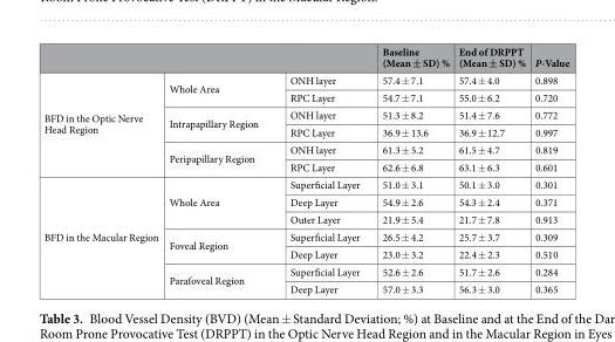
<table><thead><tr><td></td><td></td><td></td><td>Baseline (Mean ± SD) %</td><td>End of DRPPT (Mean ± SD) %</td><td>P-Value</td></tr></thead><tbody><tr><td rowspan="6">BFD in the Optic Nerve Head Region</td><td rowspan="2">Whole Area</td><td>ONH layer</td><td>57.4 ± 7.1</td><td>57.4 ± 4.0</td><td>0.898</td></tr><tr><td>RPC Layer</td><td>54.7 ± 7.1</td><td>55.0 ± 6.2</td><td>0.720</td></tr><tr><td rowspan="2">Intrapapillary Region</td><td>ONH layer</td><td>51.3 ± 8.2</td><td>51.4 ± 7.6</td><td>0.772</td></tr><tr><td>RPC Layer</td><td>36.9 ± 13.6</td><td>36.9 ± 12.7</td><td>0.997</td></tr><tr><td rowspan="2">Peripapillary Region</td><td>ONH layer</td><td>61.3 ± 5.2</td><td>61.5 ± 4.7</td><td>0.819</td></tr><tr><td>RPC Layer</td><td>62.6 ± 6.8</td><td>63.1 ± 6.3</td><td>0.601</td></tr><tr><td rowspan="7">BFD in the Macular Region</td><td rowspan="3">Whole Area</td><td>Superficial Layer</td><td>51.0 ± 3.1</td><td>50.1 ± 3.0</td><td>0.301</td></tr><tr><td>Deep Layer</td><td>54.9 ± 2.6</td><td>54.3 ± 2.4</td><td>0.371</td></tr><tr><td>Outer Layer</td><td>21.9 ± 5.4</td><td>21.7 ± 7.8</td><td>0.913</td></tr><tr><td rowspan="2">Foveal Region</td><td>Superficial Layer</td><td>26.5 ± 4.2</td><td>25.7 ± 3.7</td><td>0.309</td></tr><tr><td>Deep Layer</td><td>23.0 ± 3.2</td><td>22.4 ± 2.3</td><td>0.510</td></tr><tr><td rowspan="2">Parafoveal Region</td><td>Superficial Layer</td><td>52.6 ± 2.6</td><td>51.7 ± 2.6</td><td>0.284</td></tr><tr><td>Deep Layer</td><td>57.0 ± 3.3</td><td>56.3 ± 3.0</td><td>0.365</td></tr></tbody></table>